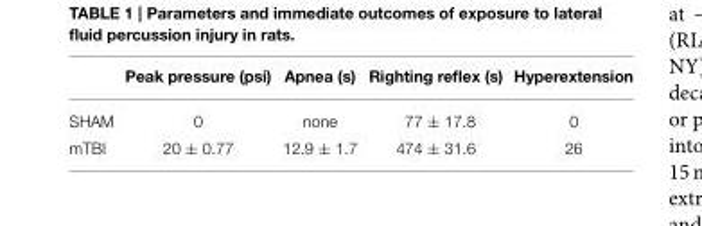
<table><thead><tr><td></td><td>Peak pressure (psi)</td><td>Apnea (s)</td><td>Righting reflex (s)</td><td>Hyperextension</td></tr></thead><tbody><tr><td>SHAM</td><td>0</td><td>none</td><td>77 ± 17.8</td><td>0</td></tr><tr><td>mTBI</td><td>20 ± 0.77</td><td>12.9 ± 1.7</td><td>474 ± 31.6</td><td>26</td></tr></tbody></table>